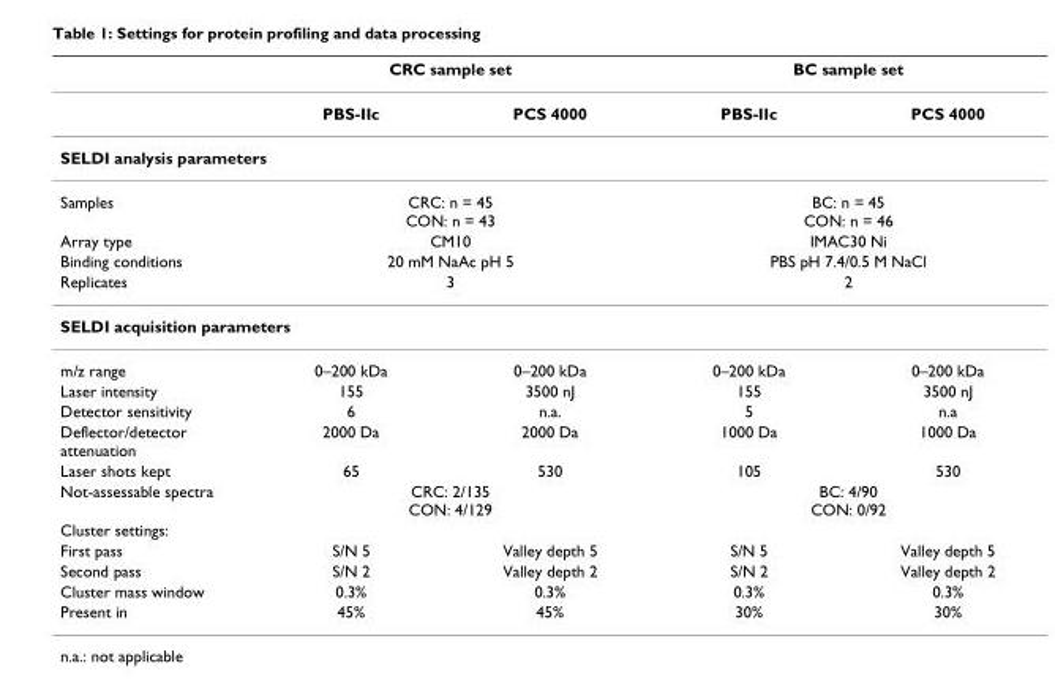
<table><thead><tr><td rowspan="2"></td><td colspan="2">CRC sample set</td><td colspan="2">BC sample set</td></tr><tr><td>PBS-IIc</td><td>PCS 4000</td><td>PBS-IIc</td><td>PCS 4000</td></tr></thead><tbody><tr><td colspan="5">SELDI analysis parameters</td></tr><tr><td>Samples</td><td colspan="2">CRC: n = 45 CON: n = 43</td><td colspan="2">BC: n = 45 CON: n = 46</td></tr><tr><td>Array type</td><td colspan="2">CM10</td><td colspan="2">IMAC30 Ni</td></tr><tr><td>Binding conditions</td><td colspan="2">20 mM NaAc pH 5</td><td colspan="2">PBS pH 7.4/0.5 M NaCl</td></tr><tr><td>Replicates</td><td colspan="2">3</td><td colspan="2">2</td></tr><tr><td colspan="5">SELDI acquisition parameters</td></tr><tr><td>m/z range</td><td>0–200 kDa</td><td>0–200 kDa</td><td>0–200 kDa</td><td>0–200 kDa</td></tr><tr><td>Laser intensity</td><td>155</td><td>3500 nJ</td><td>155</td><td>3500 nJ</td></tr><tr><td>Detector sensitivity</td><td>6</td><td>n.a.</td><td>5</td><td>n.a</td></tr><tr><td>Deflector/detector attenuation</td><td>2000 Da</td><td>2000 Da</td><td>1000 Da</td><td>1000 Da</td></tr><tr><td>Laser shots kept</td><td>65</td><td>530</td><td>105</td><td>530</td></tr><tr><td>Not-assessable spectra</td><td colspan="2">CRC: 2/135 CON: 4/129</td><td colspan="2">BC: 4/90 CON: 0/92</td></tr><tr><td colspan="5">Cluster settings:</td></tr><tr><td>First pass</td><td>S/N 5</td><td>Valley depth 5</td><td>S/N 5</td><td>Valley depth 5</td></tr><tr><td>Second pass</td><td>S/N 2</td><td>Valley depth 2</td><td>S/N 2</td><td>Valley depth 2</td></tr><tr><td>Cluster mass window</td><td>0.3%</td><td>0.3%</td><td>0.3%</td><td>0.3%</td></tr><tr><td>Present in</td><td>45%</td><td>45%</td><td>30%</td><td>30%</td></tr></tbody></table>